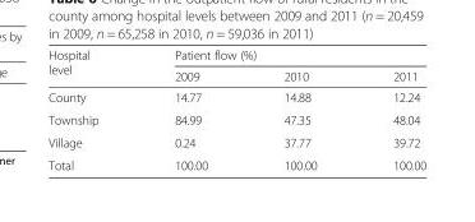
<table><thead><tr><td rowspan="2">Hospital level</td><td colspan="3">Patient flow (%)</td></tr><tr><td>2009</td><td>2010</td><td>2011</td></tr></thead><tbody><tr><td>County</td><td>14.77</td><td>14.88</td><td>12.24</td></tr><tr><td>Township</td><td>84.99</td><td>47.35</td><td>48.04</td></tr><tr><td>Village</td><td>0.24</td><td>37.77</td><td>39.72</td></tr><tr><td>Total</td><td>100.00</td><td>100.00</td><td>100.00</td></tr></tbody></table>